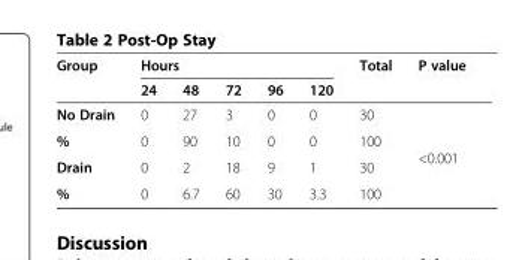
<table><thead><tr><td rowspan="2">Group</td><td colspan="5">Hours</td><td rowspan="2">Total</td><td rowspan="2">P value</td></tr><tr><td>24</td><td>48</td><td>72</td><td>96</td><td>120</td></tr></thead><tbody><tr><td>No Drain</td><td>0</td><td>27</td><td>3</td><td>0</td><td>0</td><td>30</td><td></td></tr><tr><td>%</td><td>0</td><td>90</td><td>10</td><td>0</td><td>0</td><td>100</td><td rowspan="2">&lt;0.001</td></tr><tr><td>Drain</td><td>0</td><td>2</td><td>18</td><td>9</td><td>1</td><td>30</td></tr><tr><td>%</td><td>0</td><td>6.7</td><td>60</td><td>30</td><td>3.3</td><td>100</td><td></td></tr></tbody></table>